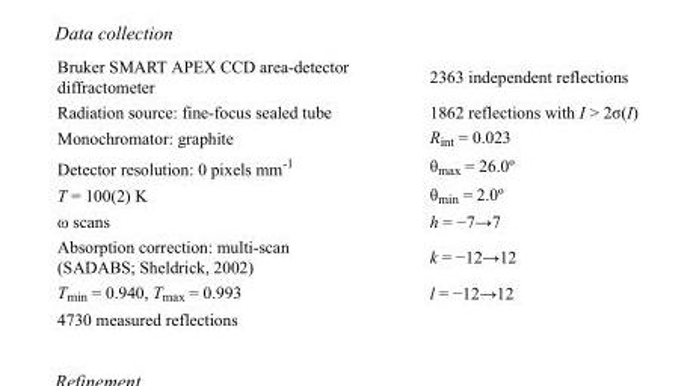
<table><tbody><tr><td>Bruker SMART APEX CCD area-detector diffractometer</td><td>2363 independent reflections</td></tr><tr><td>Radiation source: fine-focus sealed tube</td><td>1862 reflections with I &gt; 2σ(I)</td></tr><tr><td>Monochromator: graphite</td><td>R<sub>int</sub> = 0.023</td></tr><tr><td>Detector resolution: 0 pixels mm<sup>-1</sup></td><td>θ<sub>max</sub> = 26.0º</td></tr><tr><td>T = 100(2) K</td><td>θ<sub>min</sub> = 2.0º</td></tr><tr><td>ω scans</td><td>h = −7→7</td></tr><tr><td>Absorption correction: multi-scan (SADABS; Sheldrick, 2002)</td><td>k = −12→12</td></tr><tr><td>T<sub>min</sub> = 0.940, T<sub>max</sub> = 0.993</td><td>l = −12→12</td></tr><tr><td>4730 measured reflections</td><td></td></tr></tbody></table>